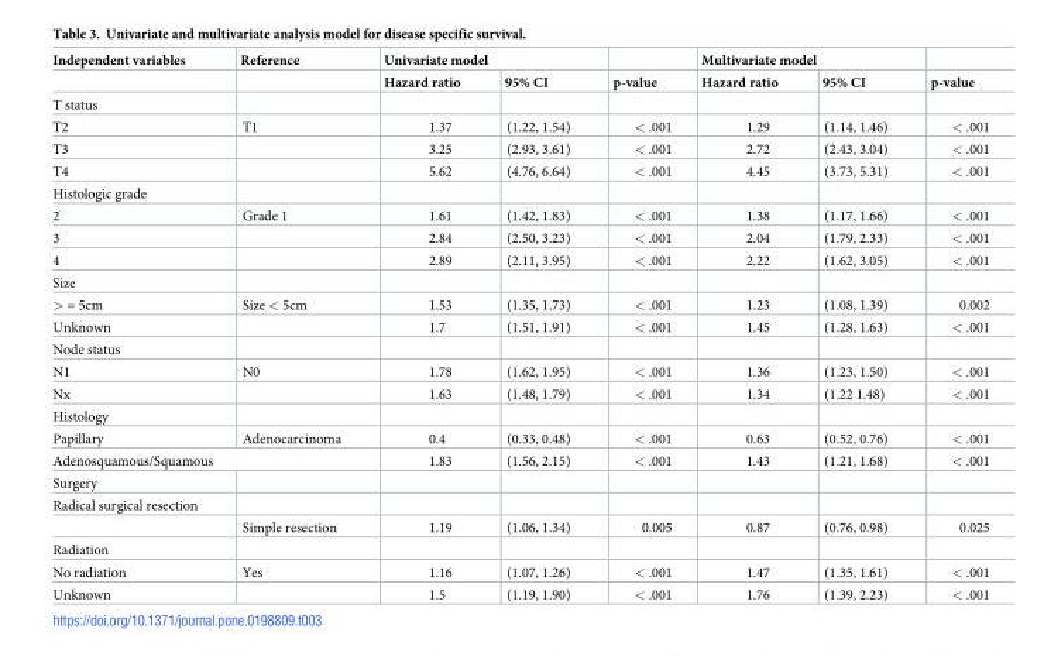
<table><thead><tr><td rowspan="2">Independent variables</td><td rowspan="2">Reference</td><td colspan="2">Univariate model</td><td rowspan="2">p-value</td><td colspan="2">Multivariate model</td><td rowspan="2">p-value</td></tr><tr><td>Hazard ratio</td><td>95% CI</td><td>Hazard ratio</td><td>95% CI</td></tr></thead><tbody><tr><td colspan="8">T status</td></tr><tr><td>T2</td><td>T1</td><td>1.37</td><td>(1.22, 1.54)</td><td>&lt; .001</td><td>1.29</td><td>(1.14, 1.46)</td><td>&lt; .001</td></tr><tr><td>T3</td><td></td><td>3.25</td><td>(2.93, 3.61)</td><td>&lt; .001</td><td>2.72</td><td>(2.43, 3.04)</td><td>&lt; .001</td></tr><tr><td>T4</td><td></td><td>5.62</td><td>(4.76, 6.64)</td><td>&lt; .001</td><td>4.45</td><td>(3.73, 5.31)</td><td>&lt; .001</td></tr><tr><td colspan="8">Histologic grade</td></tr><tr><td>2</td><td>Grade 1</td><td>1.61</td><td>(1.42, 1.83)</td><td>&lt; .001</td><td>1.38</td><td>(1.17, 1.66)</td><td>&lt; .001</td></tr><tr><td>3</td><td></td><td>2.84</td><td>(2.50, 3.23)</td><td>&lt; .001</td><td>2.04</td><td>(1.79, 2.33)</td><td>&lt; .001</td></tr><tr><td>4</td><td></td><td>2.89</td><td>(2.11, 3.95)</td><td>&lt; .001</td><td>2.22</td><td>(1.62, 3.05)</td><td>&lt; .001</td></tr><tr><td colspan="8">Size</td></tr><tr><td>&gt; = 5cm</td><td>Size &lt; 5cm</td><td>1.53</td><td>(1.35, 1.73)</td><td>&lt; .001</td><td>1.23</td><td>(1.08, 1.39)</td><td>0.002</td></tr><tr><td>Unknown</td><td></td><td>1.7</td><td>(1.51, 1.91)</td><td>&lt; .001</td><td>1.45</td><td>(1.28, 1.63)</td><td>&lt; .001</td></tr><tr><td colspan="8">Node status</td></tr><tr><td>N1</td><td>N0</td><td>1.78</td><td>(1.62, 1.95)</td><td>&lt; .001</td><td>1.36</td><td>(1.23, 1.50)</td><td>&lt; .001</td></tr><tr><td>Nx</td><td></td><td>1.63</td><td>(1.48, 1.79)</td><td>&lt; .001</td><td>1.34</td><td>(1.22 1.48)</td><td>&lt; .001</td></tr><tr><td colspan="8">Histology</td></tr><tr><td>Papillary</td><td>Adenocarcinoma</td><td>0.4</td><td>(0.33, 0.48)</td><td>&lt; .001</td><td>0.63</td><td>(0.52, 0.76)</td><td>&lt; .001</td></tr><tr><td colspan="2">Adenosquamous/Squamous</td><td>1.83</td><td>(1.56, 2.15)</td><td>&lt; .001</td><td>1.43</td><td>(1.21, 1.68)</td><td>&lt; .001</td></tr><tr><td colspan="8">Surgery</td></tr><tr><td colspan="8">Radical surgical resection</td></tr><tr><td></td><td>Simple resection</td><td>1.19</td><td>(1.06, 1.34)</td><td>0.005</td><td>0.87</td><td>(0.76, 0.98)</td><td>0.025</td></tr><tr><td colspan="8">Radiation</td></tr><tr><td>No radiation</td><td>Yes</td><td>1.16</td><td>(1.07, 1.26)</td><td>&lt; .001</td><td>1.47</td><td>(1.35, 1.61)</td><td>&lt; .001</td></tr><tr><td>Unknown</td><td></td><td>1.5</td><td>(1.19, 1.90)</td><td>&lt; .001</td><td>1.76</td><td>(1.39, 2.23)</td><td>&lt; .001</td></tr></tbody></table>